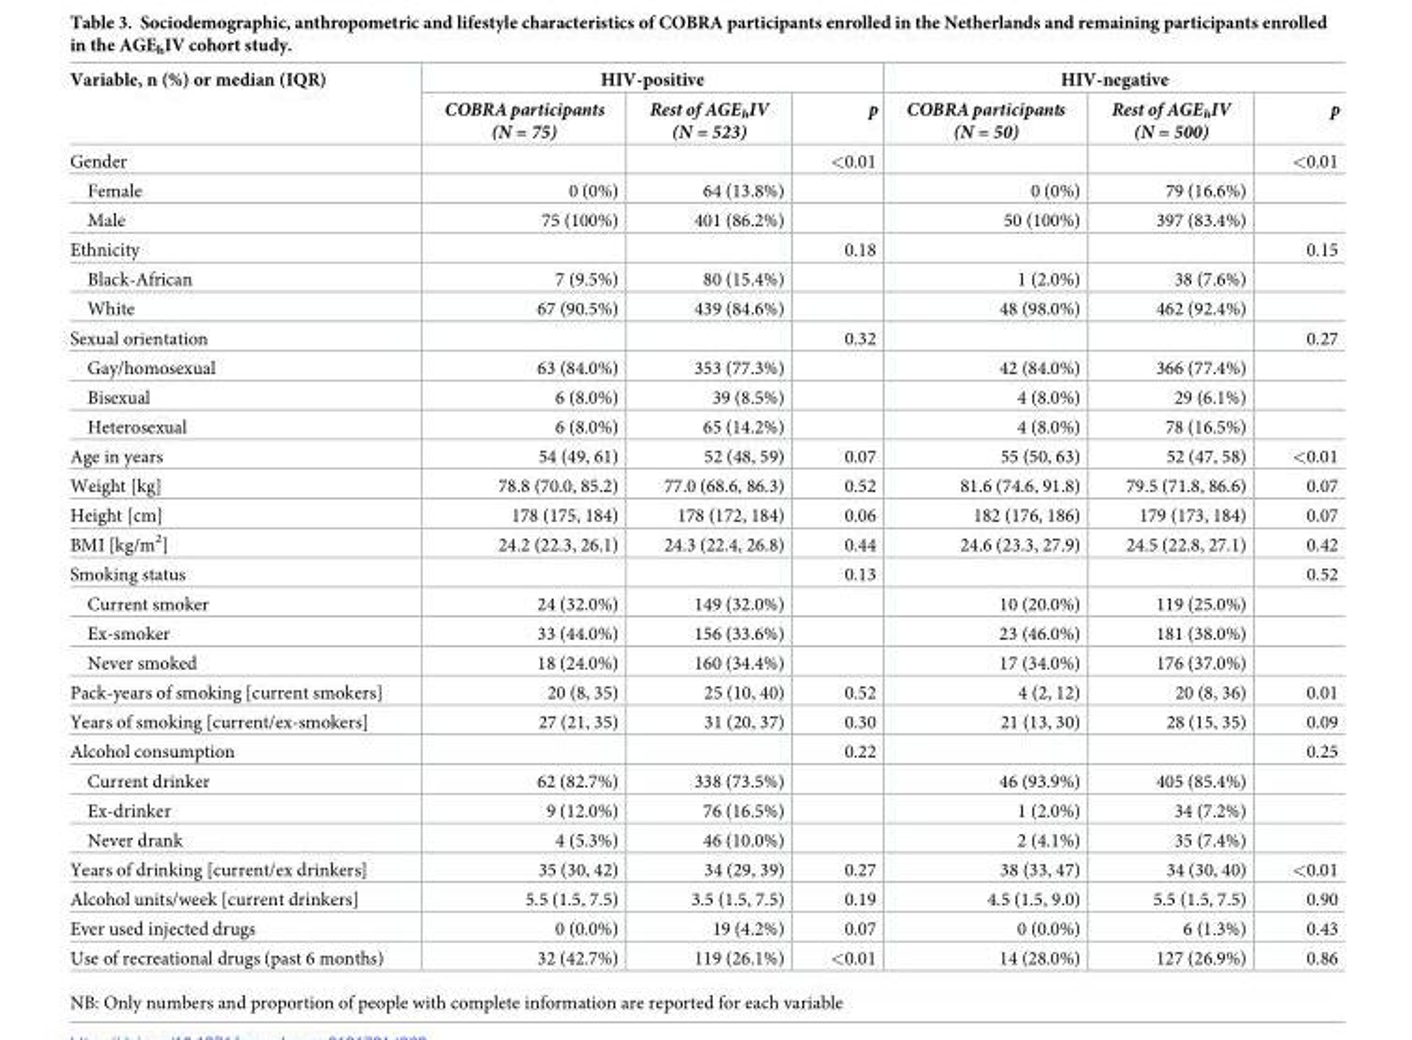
<table><thead><tr><td rowspan="2">Variable, n (%) or median (IQR)</td><td colspan="3">HIV-positive</td><td colspan="3">HIV-negative</td></tr><tr><td>COBRA participants (N = 75)</td><td>Rest of AGE<sub>h</sub>IV (N = 523)</td><td>p</td><td>COBRA participants (N = 50)</td><td>Rest of AGE<sub>h</sub>IV (N = 500)</td><td>p</td></tr></thead><tbody><tr><td>Gender</td><td></td><td></td><td>&lt;0.01</td><td></td><td></td><td>&lt;0.01</td></tr><tr><td>Female</td><td>0 (0%)</td><td>64 (13.8%)</td><td></td><td>0 (0%)</td><td>79 (16.6%)</td><td></td></tr><tr><td>Male</td><td>75 (100%)</td><td>401 (86.2%)</td><td></td><td>50 (100%)</td><td>397 (83.4%)</td><td></td></tr><tr><td>Ethnicity</td><td></td><td></td><td>0.18</td><td></td><td></td><td>0.15</td></tr><tr><td>Black-African</td><td>7 (9.5%)</td><td>80 (15.4%)</td><td></td><td>1 (2.0%)</td><td>38 (7.6%)</td><td></td></tr><tr><td>White</td><td>67 (90.5%)</td><td>439 (84.6%)</td><td></td><td>48 (98.0%)</td><td>462 (92.4%)</td><td></td></tr><tr><td>Sexual orientation</td><td></td><td></td><td>0.32</td><td></td><td></td><td>0.27</td></tr><tr><td>Gay/homosexual</td><td>63 (84.0%)</td><td>353 (77.3%)</td><td></td><td>42 (84.0%)</td><td>366 (77.4%)</td><td></td></tr><tr><td>Bisexual</td><td>6 (8.0%)</td><td>39 (8.5%)</td><td></td><td>4 (8.0%)</td><td>29 (6.1%)</td><td></td></tr><tr><td>Heterosexual</td><td>6 (8.0%)</td><td>65 (14.2%)</td><td></td><td>4 (8.0%)</td><td>78 (16.5%)</td><td></td></tr><tr><td>Age in years</td><td>54 (49, 61)</td><td>52 (48, 59)</td><td>0.07</td><td>55 (50, 63)</td><td>52 (47, 58)</td><td>&lt;0.01</td></tr><tr><td>Weight [kg]</td><td>78.8 (70.0, 85.2)</td><td>77.0 (68.6, 86.3)</td><td>0.52</td><td>81.6 (74.6, 91.8)</td><td>79.5 (71.8, 86.6)</td><td>0.07</td></tr><tr><td>Height [cm]</td><td>178 (175, 184)</td><td>178 (172, 184)</td><td>0.06</td><td>182 (176, 186)</td><td>179 (173, 184)</td><td>0.07</td></tr><tr><td>BMI [kg/m<sup>2</sup>]</td><td>24.2 (22.3, 26.1)</td><td>24.3 (22.4, 26.8)</td><td>0.44</td><td>24.6 (23.3, 27.9)</td><td>24.5 (22.8, 27.1)</td><td>0.42</td></tr><tr><td>Smoking status</td><td></td><td></td><td>0.13</td><td></td><td></td><td>0.52</td></tr><tr><td>Current smoker</td><td>24 (32.0%)</td><td>149 (32.0%)</td><td></td><td>10 (20.0%)</td><td>119 (25.0%)</td><td></td></tr><tr><td>Ex-smoker</td><td>33 (44.0%)</td><td>156 (33.6%)</td><td></td><td>23 (46.0%)</td><td>181 (38.0%)</td><td></td></tr><tr><td>Never smoked</td><td>18 (24.0%)</td><td>160 (34.4%)</td><td></td><td>17 (34.0%)</td><td>176 (37.0%)</td><td></td></tr><tr><td>Pack-years of smoking [current smokers]</td><td>20 (8, 35)</td><td>25 (10, 40)</td><td>0.52</td><td>4 (2, 12)</td><td>20 (8, 36)</td><td>0.01</td></tr><tr><td>Years of smoking [current/ex-smokers]</td><td>27 (21, 35)</td><td>31 (20, 37)</td><td>0.30</td><td>21 (13, 30)</td><td>28 (15, 35)</td><td>0.09</td></tr><tr><td>Alcohol consumption</td><td></td><td></td><td>0.22</td><td></td><td></td><td>0.25</td></tr><tr><td>Current drinker</td><td>62 (82.7%)</td><td>338 (73.5%)</td><td></td><td>46 (93.9%)</td><td>405 (85.4%)</td><td></td></tr><tr><td>Ex-drinker</td><td>9 (12.0%)</td><td>76 (16.5%)</td><td></td><td>1 (2.0%)</td><td>34 (7.2%)</td><td></td></tr><tr><td>Never drank</td><td>4 (5.3%)</td><td>46 (10.0%)</td><td></td><td>2 (4.1%)</td><td>35 (7.4%)</td><td></td></tr><tr><td>Years of drinking [current/ex drinkers]</td><td>35 (30, 42)</td><td>34 (29, 39)</td><td>0.27</td><td>38 (33, 47)</td><td>34 (30, 40)</td><td>&lt;0.01</td></tr><tr><td>Alcohol units/week [current drinkers]</td><td>5.5 (1.5, 7.5)</td><td>3.5 (1.5, 7.5)</td><td>0.19</td><td>4.5 (1.5, 9.0)</td><td>5.5 (1.5, 7.5)</td><td>0.90</td></tr><tr><td>Ever used injected drugs</td><td>0 (0.0%)</td><td>19 (4.2%)</td><td>0.07</td><td>0 (0.0%)</td><td>6 (1.3%)</td><td>0.43</td></tr><tr><td>Use of recreational drugs (past 6 months)</td><td>32 (42.7%)</td><td>119 (26.1%)</td><td>&lt;0.01</td><td>14 (28.0%)</td><td>127 (26.9%)</td><td>0.86</td></tr></tbody></table>